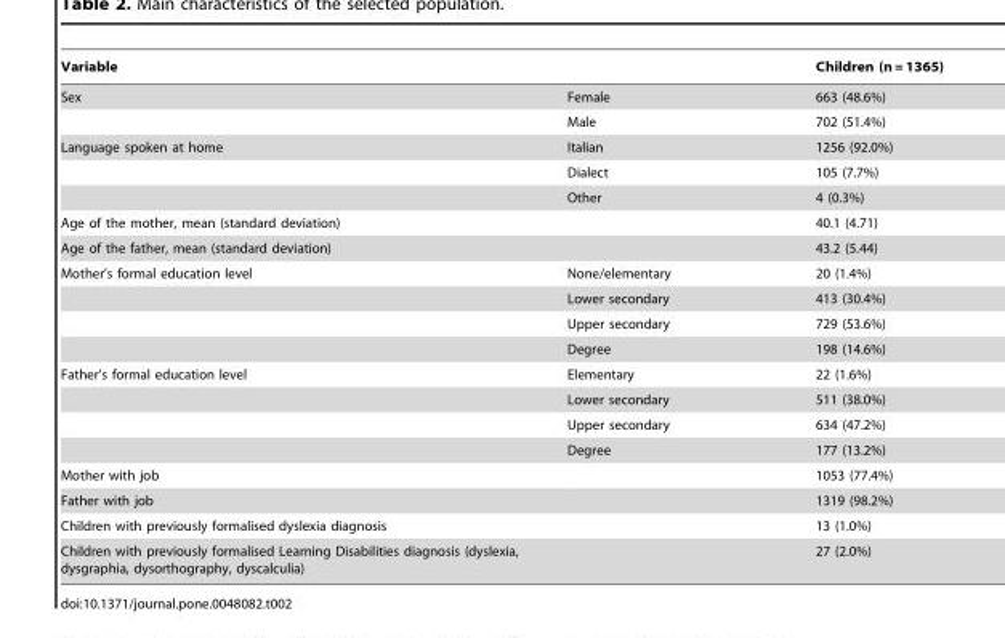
<table><thead><tr><td colspan="2">Variable</td><td rowspan="2">Children (n = 1365) 663 (48.6%)</td></tr><tr><td>Sex</td><td>Female</td></tr></thead><tbody><tr><td></td><td>Male</td><td>702 (51.4%)</td></tr><tr><td rowspan="3">Language spoken at home</td><td>Italian</td><td>1256 (92.0%)</td></tr><tr><td>Dialect</td><td>105 (7.7%)</td></tr><tr><td>Other</td><td>4 (0.3%)</td></tr><tr><td>Age of the mother, mean (standard deviation)</td><td></td><td>40.1 (4.71)</td></tr><tr><td>Age of the father, mean (standard deviation)</td><td></td><td>43.2 (5.44)</td></tr><tr><td rowspan="4">Mother’s formal education level</td><td>None/elementary</td><td>20 (1.4%)</td></tr><tr><td>Lower secondary</td><td>413 (30.4%)</td></tr><tr><td>Upper secondary</td><td>729 (53.6%)</td></tr><tr><td>Degree</td><td>198 (14.6%)</td></tr><tr><td rowspan="4">Father’s formal education level</td><td>Elementary</td><td>22 (1.6%)</td></tr><tr><td>Lower secondary</td><td>511 (38.0%)</td></tr><tr><td>Upper secondary</td><td>634 (47.2%)</td></tr><tr><td>Degree</td><td>177 (13.2%)</td></tr><tr><td>Mother with job</td><td></td><td>1053 (77.4%)</td></tr><tr><td>Father with job</td><td></td><td>1319 (98.2%)</td></tr><tr><td>Children with previously formalised dyslexia diagnosis</td><td></td><td>13 (1.0%)</td></tr><tr><td>Children with previously formalised Learning Disabilities diagnosis (dyslexia, dysgraphia, dysorthography, dyscalculia)</td><td></td><td>27 (2.0%)</td></tr></tbody></table>